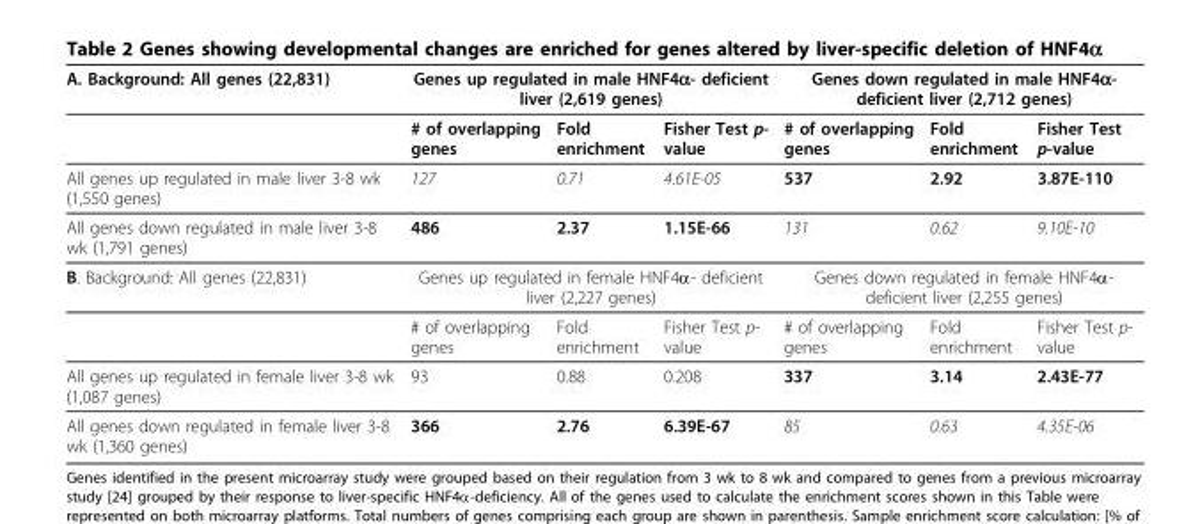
<table><thead><tr><td rowspan="2">A. Background: All genes (22,831)</td><td colspan="3">Genes up regulated in male HNF4α- deficient liver (2,619 genes)</td><td colspan="3">Genes down regulated in male HNF4α- deficient liver (2,712 genes)</td></tr><tr><td># of overlapping genes</td><td>Fold enrichment</td><td>Fisher Test p- value</td><td># of overlapping genes</td><td>Fold enrichment</td><td>Fisher Test p-value</td></tr></thead><tbody><tr><td>All genes up regulated in male liver 3-8 wk (1,550 genes)</td><td>127</td><td>0.71</td><td>4.61E-05</td><td>537</td><td>2.92</td><td>3.87E-110</td></tr><tr><td>All genes down regulated in male liver 3-8 wk (1,791 genes)</td><td>486</td><td>2.37</td><td>1.15E-66</td><td>131</td><td>0.62</td><td>9.10E-10</td></tr><tr><td rowspan="2">B. Background: All genes (22,831)</td><td colspan="3">Genes up regulated in female HNF4α- deficient liver (2,227 genes)</td><td colspan="3">Genes down regulated in female HNF4α- deficient liver (2,255 genes)</td></tr><tr><td># of overlapping genes</td><td>Fold enrichment</td><td>Fisher Test p- value</td><td># of overlapping genes</td><td>Fold enrichment</td><td>Fisher Test p- value</td></tr><tr><td>All genes up regulated in female liver 3-8 wk (1,087 genes)</td><td>93</td><td>0.88</td><td>0.208</td><td>337</td><td>3.14</td><td>2.43E-77</td></tr><tr><td>All genes down regulated in female liver 3-8 wk (1,360 genes)</td><td>366</td><td>2.76</td><td>6.39E-67</td><td>85</td><td>0.63</td><td>4.35E-06</td></tr></tbody></table>